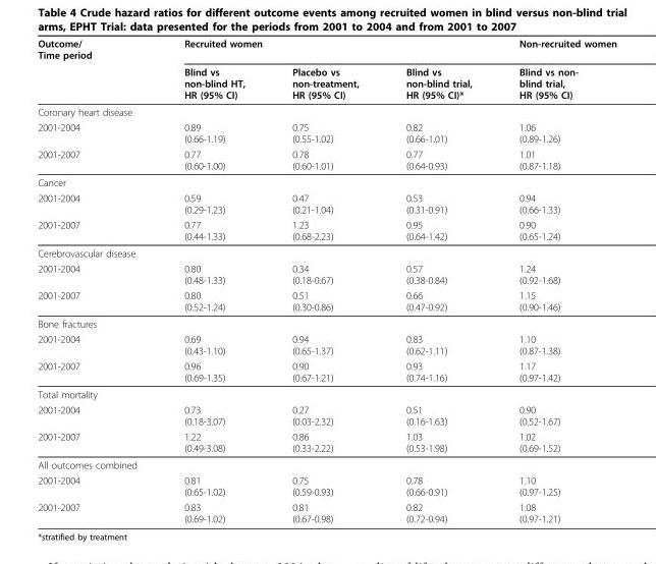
<table><thead><tr><td rowspan="2">Outcome/ Time period</td><td colspan="3">Recruited women</td><td rowspan="2">Non-recruited women Blind vs non- blind trial, HR (95% CI)</td></tr><tr><td>Blind vs non-blind HT, HR (95% CI)</td><td>Placebo vs non-treatment, HR (95% CI)</td><td>Blind vs non-blind trial, HR (95% CI)*</td></tr></thead><tbody><tr><td colspan="5">Coronary heart disease</td></tr><tr><td>2001-2004</td><td>0.89 (0.66-1.19)</td><td>0.75 (0.55-1.02)</td><td>0.82 (0.66-1.01)</td><td>1.06 (0.89-1.26)</td></tr><tr><td>2001-2007</td><td>0.77 (0.60-1.00)</td><td>0.78 (0.60-1.01)</td><td>0.77 (0.64-0.93)</td><td>1.01 (0.87-1.18)</td></tr><tr><td colspan="5">Cancer</td></tr><tr><td>2001-2004</td><td>0.59 (0.29-1.23)</td><td>0.47 (0.21-1.04)</td><td>0.53 (0.31-0.91)</td><td>0.94 (0.66-1.33)</td></tr><tr><td>2001-2007</td><td>0.77 (0.44-1.33)</td><td>1.23 (0.68-2.23)</td><td>0.95 (0.64-1.42)</td><td>0.90 (0.65-1.24)</td></tr><tr><td colspan="5">Cerebrovascular disease</td></tr><tr><td>2001-2004</td><td>0.80 (0.48-1.33)</td><td>0.34 (0.18-0.67)</td><td>0.57 (0.38-0.84)</td><td>1.24 (0.92-1.68)</td></tr><tr><td>2001-2007</td><td>0.80 (0.52-1.24)</td><td>0.51 (0.30-0.86)</td><td>0.66 (0.47-0.92)</td><td>1.15 (0.90-1.46)</td></tr><tr><td colspan="5">Bone fractures</td></tr><tr><td>2001-2004</td><td>0.69 (0.43-1.10)</td><td>0.94 (0.65-1.37)</td><td>0.83 (0.62-1.11)</td><td>1.10 (0.87-1.38)</td></tr><tr><td>2001-2007</td><td>0.96 (0.69-1.35)</td><td>0.90 (0.67-1.21)</td><td>0.93 (0.74-1.16)</td><td>1.17 (0.97-1.42)</td></tr><tr><td colspan="5">Total mortality</td></tr><tr><td>2001-2004</td><td>0.73 (0.18-3.07)</td><td>0.27 (0.03-2.32)</td><td>0.51 (0.16-1.63)</td><td>0.90 (0.52-1.67)</td></tr><tr><td>2001-2007</td><td>1.22 (0.49-3.08)</td><td>0.86 (0.33-2.22)</td><td>1.03 (0.53-1.98)</td><td>1.02 (0.69-1.52)</td></tr><tr><td colspan="5">All outcomes combined</td></tr><tr><td>2001-2004</td><td>0.81 (0.65-1.02)</td><td>0.75 (0.59-0.93)</td><td>0.78 (0.66-0.91)</td><td>1.10 (0.97-1.25)</td></tr><tr><td>2001-2007</td><td>0.83 (0.69-1.02)</td><td>0.81 (0.67-0.98)</td><td>0.82 (0.72-0.94)</td><td>1.08 (0.97-1.21)</td></tr></tbody></table>